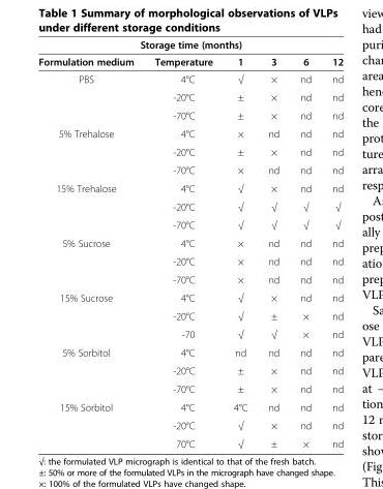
<table><thead><tr><td colspan="6">Storage time (months)</td></tr><tr><td>Formulation medium</td><td>Temperature</td><td>1</td><td>3</td><td>6</td><td>12</td></tr></thead><tbody><tr><td rowspan="3">PBS</td><td>4°C</td><td>√</td><td>×</td><td>nd</td><td>nd</td></tr><tr><td>-20°C</td><td>±</td><td>×</td><td>nd</td><td>nd</td></tr><tr><td>-70°C</td><td>±</td><td>×</td><td>nd</td><td>nd</td></tr><tr><td rowspan="3">5% Trehalose</td><td>4°C</td><td>×</td><td>nd</td><td>nd</td><td>nd</td></tr><tr><td>-20°C</td><td>±</td><td>×</td><td>nd</td><td>nd</td></tr><tr><td>-70°C</td><td>×</td><td>nd</td><td>nd</td><td>nd</td></tr><tr><td rowspan="3">15% Trehalose</td><td>4°C</td><td>√</td><td>×</td><td>nd</td><td>nd</td></tr><tr><td>-20°C</td><td>√</td><td>√</td><td>√</td><td>√</td></tr><tr><td>-70°C</td><td>√</td><td>√</td><td>√</td><td>√</td></tr><tr><td rowspan="3">5% Sucrose</td><td>4°C</td><td>×</td><td>nd</td><td>nd</td><td>nd</td></tr><tr><td>-20°C</td><td>×</td><td>nd</td><td>nd</td><td>nd</td></tr><tr><td>-70°C</td><td>×</td><td>nd</td><td>nd</td><td>nd</td></tr><tr><td rowspan="3">15% Sucrose</td><td>4°C</td><td>√</td><td>×</td><td>nd</td><td>nd</td></tr><tr><td>-20°C</td><td>√</td><td>±</td><td>×</td><td>nd</td></tr><tr><td>-70</td><td>√</td><td>√</td><td>×</td><td>nd</td></tr><tr><td rowspan="3">5% Sorbitol</td><td>4°C</td><td>nd</td><td>nd</td><td>nd</td><td>nd</td></tr><tr><td>-20°C</td><td>±</td><td>×</td><td>nd</td><td>nd</td></tr><tr><td>-70°C</td><td>±</td><td>×</td><td>nd</td><td>nd</td></tr><tr><td rowspan="3">15% Sorbitol</td><td>4°C</td><td>4°C</td><td>nd</td><td>nd</td><td>nd</td></tr><tr><td>-20°C</td><td>√</td><td>×</td><td>nd</td><td>nd</td></tr><tr><td>70°C</td><td>√</td><td>±</td><td>×</td><td>nd</td></tr></tbody></table>